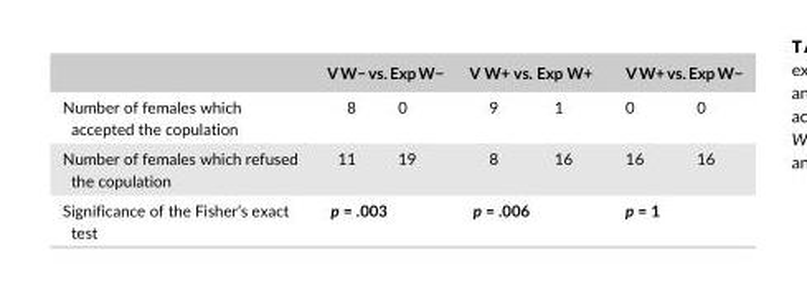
<table><thead><tr><td rowspan="2">Number of females which accepted the copulation</td><td colspan="2">V W− vs. Exp W−</td><td colspan="2">V W+ vs. Exp W+</td><td colspan="2">V W+ vs. Exp W−</td></tr><tr><td>8</td><td>0</td><td>9</td><td>1</td><td>0</td><td>0</td></tr></thead><tbody><tr><td>Number of females which refused the copulation</td><td>11</td><td>19</td><td>8</td><td>16</td><td>16</td><td>16</td></tr><tr><td>Significance of the Fisher’s exact test</td><td colspan="2">p = .003</td><td colspan="2">p = .006</td><td colspan="2">p = 1</td></tr></tbody></table>